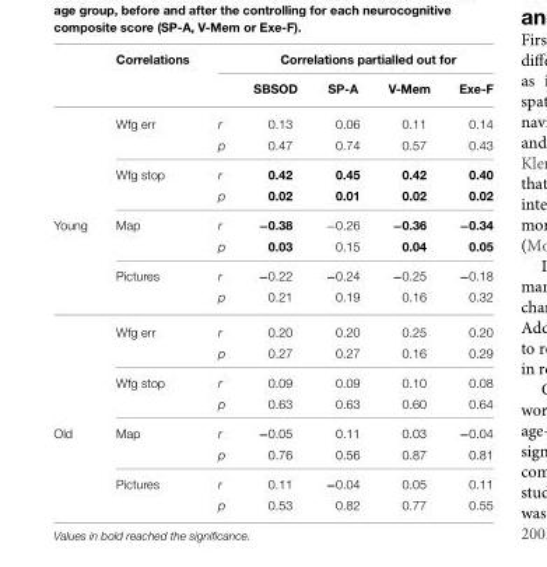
<table><thead><tr><td rowspan="2"></td><td rowspan="2">Correlations</td><td rowspan="2"></td><td colspan="4">Correlations partialled out for</td></tr><tr><td>SBSOD</td><td>SP-A</td><td>V-Mem</td><td>Exe-F</td></tr></thead><tbody><tr><td></td><td>Wfg err</td><td>r</td><td>0.13</td><td>0.06</td><td>0.11</td><td>0.14</td></tr><tr><td></td><td></td><td>p</td><td>0.47</td><td>0.74</td><td>0.57</td><td>0.43</td></tr><tr><td></td><td>Wfg stop</td><td>r</td><td>0.42</td><td>0.45</td><td>0.42</td><td>0.40</td></tr><tr><td></td><td></td><td>p</td><td>0.02</td><td>0.01</td><td>0.02</td><td>0.02</td></tr><tr><td rowspan="8">Young</td><td>Map</td><td>r</td><td>−0.38</td><td>−0.26</td><td>−0.36</td><td>−0.34</td></tr><tr><td></td><td>p</td><td>0.03</td><td>0.15</td><td>0.04</td><td>0.05</td></tr><tr><td>Pictures</td><td>r</td><td>−0.22</td><td>−0.24</td><td>−0.25</td><td>−0.18</td></tr><tr><td></td><td>p</td><td>0.21</td><td>0.19</td><td>0.16</td><td>0.32</td></tr><tr><td>Wfg err</td><td>r</td><td>0.20</td><td>0.20</td><td>0.25</td><td>0.20</td></tr><tr><td></td><td>p</td><td>0.27</td><td>0.27</td><td>0.16</td><td>0.29</td></tr><tr><td>Wfg stop</td><td>r</td><td>0.09</td><td>0.09</td><td>0.10</td><td>0.08</td></tr><tr><td></td><td>p</td><td>0.63</td><td>0.63</td><td>0.60</td><td>0.64</td></tr><tr><td rowspan="4">Old</td><td>Map</td><td>r</td><td>−0.05</td><td>0.11</td><td>0.03</td><td>−0.04</td></tr><tr><td></td><td>p</td><td>0.76</td><td>0.56</td><td>0.87</td><td>0.81</td></tr><tr><td>Pictures</td><td>r</td><td>0.11</td><td>−0.04</td><td>0.05</td><td>0.11</td></tr><tr><td></td><td>p</td><td>0.53</td><td>0.82</td><td>0.77</td><td>0.55</td></tr></tbody></table>